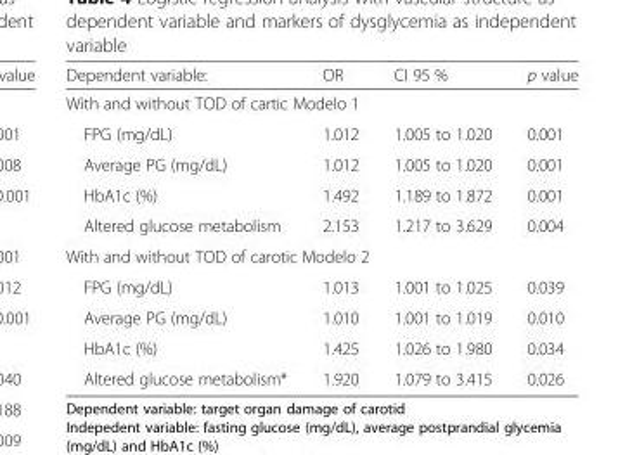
<table><thead><tr><td>Dependent variable:</td><td>OR</td><td>CI 95 %</td><td>p value</td></tr></thead><tbody><tr><td colspan="4">With and without TOD of cartic Modelo 1</td></tr><tr><td>FPG (mg/dL)</td><td>1.012</td><td>1.005 to 1.020</td><td>0.001</td></tr><tr><td>Average PG (mg/dL)</td><td>1.012</td><td>1.005 to 1.020</td><td>0.001</td></tr><tr><td>HbA1c (%)</td><td>1.492</td><td>1.189 to 1.872</td><td>0.001</td></tr><tr><td>Altered glucose metabolism</td><td>2.153</td><td>1.217 to 3.629</td><td>0.004</td></tr><tr><td colspan="4">With and without TOD of carotic Modelo 2</td></tr><tr><td>FPG (mg/dL)</td><td>1.013</td><td>1.001 to 1.025</td><td>0.039</td></tr><tr><td>Average PG (mg/dL)</td><td>1.010</td><td>1.001 to 1.019</td><td>0.010</td></tr><tr><td>HbA1c (%)</td><td>1.425</td><td>1.026 to 1.980</td><td>0.034</td></tr><tr><td>Altered glucose metabolism*</td><td>1.920</td><td>1.079 to 3.415</td><td>0.026</td></tr></tbody></table>